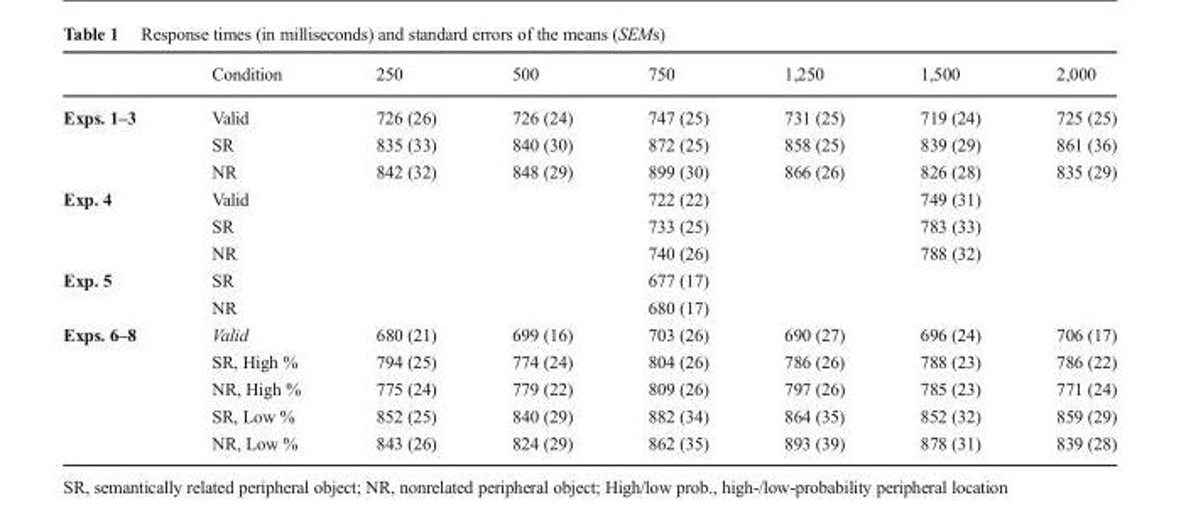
<table><thead><tr><td></td><td>Condition</td><td>250</td><td>500</td><td>750</td><td>1,250</td><td>1,500</td><td>2,000</td></tr></thead><tbody><tr><td rowspan="3">Exps. 1–3</td><td>Valid</td><td>726 (26)</td><td>726 (24)</td><td>747 (25)</td><td>731 (25)</td><td>719 (24)</td><td>725 (25)</td></tr><tr><td>SR</td><td>835 (33)</td><td>840 (30)</td><td>872 (25)</td><td>858 (25)</td><td>839 (29)</td><td>861 (36)</td></tr><tr><td>NR</td><td>842 (32)</td><td>848 (29)</td><td>899 (30)</td><td>866 (26)</td><td>826 (28)</td><td>835 (29)</td></tr><tr><td rowspan="3">Exp. 4</td><td>Valid</td><td></td><td></td><td>722 (22)</td><td></td><td>749 (31)</td><td></td></tr><tr><td>SR</td><td></td><td></td><td>733 (25)</td><td></td><td>783 (33)</td><td></td></tr><tr><td>NR</td><td></td><td></td><td>740 (26)</td><td></td><td>788 (32)</td><td></td></tr><tr><td rowspan="2">Exp. 5</td><td>SR</td><td></td><td></td><td>677 (17)</td><td></td><td></td><td></td></tr><tr><td>NR</td><td></td><td></td><td>680 (17)</td><td></td><td></td><td></td></tr><tr><td rowspan="5">Exps. 6–8</td><td>Valid</td><td>680 (21)</td><td>699 (16)</td><td>703 (26)</td><td>690 (27)</td><td>696 (24)</td><td>706 (17)</td></tr><tr><td>SR, High %</td><td>794 (25)</td><td>774 (24)</td><td>804 (26)</td><td>786 (26)</td><td>788 (23)</td><td>786 (22)</td></tr><tr><td>NR, High %</td><td>775 (24)</td><td>779 (22)</td><td>809 (26)</td><td>797 (26)</td><td>785 (23)</td><td>771 (24)</td></tr><tr><td>SR, Low %</td><td>852 (25)</td><td>840 (29)</td><td>882 (34)</td><td>864 (35)</td><td>852 (32)</td><td>859 (29)</td></tr><tr><td>NR, Low %</td><td>843 (26)</td><td>824 (29)</td><td>862 (35)</td><td>893 (39)</td><td>878 (31)</td><td>839 (28)</td></tr></tbody></table>